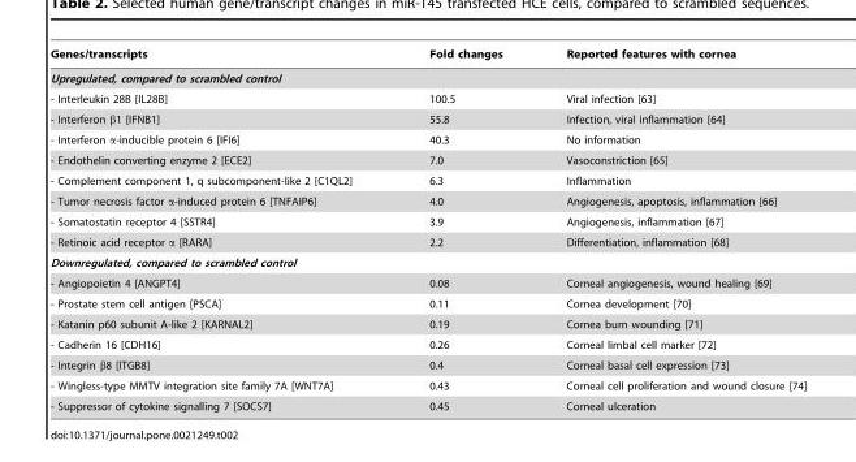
<table><thead><tr><td>Genes/transcripts</td><td>Fold changes</td><td>Reported features with cornea</td></tr></thead><tbody><tr><td colspan="3">Upregulated, compared to scrambled control</td></tr><tr><td>- Interleukin 28B [IL28B]</td><td>100.5</td><td>Viral infection [63]</td></tr><tr><td>- Interferon β1 [IFNB1]</td><td>55.8</td><td>Infection, viral inflammation [64]</td></tr><tr><td>- Interferon α-inducible protein 6 [IFI6]</td><td>40.3</td><td>No information</td></tr><tr><td>- Endothelin converting enzyme 2 [ECE2]</td><td>7.0</td><td>Vasoconstriction [65]</td></tr><tr><td>- Complement component 1, q subcomponent-like 2 [C1QL2]</td><td>6.3</td><td>Inflammation</td></tr><tr><td>- Tumor necrosis factor α-induced protein 6 [TNFAIP6]</td><td>4.0</td><td>Angiogenesis, apoptosis, inflammation [66]</td></tr><tr><td>- Somatostatin receptor 4 [SSTR4]</td><td>3.9</td><td>Angiogenesis, inflammation [67]</td></tr><tr><td>- Retinoic acid receptor α [RARA]</td><td>2.2</td><td>Differentiation, inflammation [68]</td></tr><tr><td colspan="3">Downregulated, compared to scrambled control</td></tr><tr><td>- Angiopoietin 4 [ANGPT4]</td><td>0.08</td><td>Corneal angiogenesis, wound healing [69]</td></tr><tr><td>- Prostate stem cell antigen [PSCA]</td><td>0.11</td><td>Cornea development [70]</td></tr><tr><td>- Katanin p60 subunit A-like 2 [KARNAL2]</td><td>0.19</td><td>Cornea burn wounding [71]</td></tr><tr><td>- Cadherin 16 [CDH16]</td><td>0.26</td><td>Corneal limbal cell marker [72]</td></tr><tr><td>- Integrin β8 [ITGB8]</td><td>0.4</td><td>Corneal basal cell expression [73]</td></tr><tr><td>- Wingless-type MMTV integration site family 7A [WNT7A]</td><td>0.43</td><td>Corneal cell proliferation and wound closure [74]</td></tr><tr><td>- Suppressor of cytokine signalling 7 [SOCS7]</td><td>0.45</td><td>Corneal ulceration</td></tr></tbody></table>